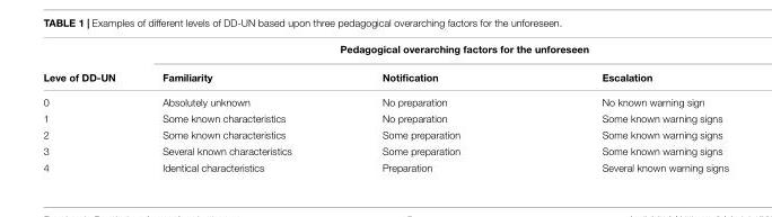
<table><thead><tr><td rowspan="2">Leve of DD-UN</td><td colspan="3">Pedagogical overarching factors for the unforeseen</td></tr><tr><td>Familiarity</td><td>Notification</td><td>Escalation</td></tr></thead><tbody><tr><td>0</td><td>Absolutely unknown</td><td>No preparation</td><td>No known warning sign</td></tr><tr><td>1</td><td>Some known characteristics</td><td>No preparation</td><td>Some known warning signs</td></tr><tr><td>2</td><td>Some known characteristics</td><td>Some preparation</td><td>Some known warning signs</td></tr><tr><td>3</td><td>Several known characteristics</td><td>Some preparation</td><td>Some known warning signs</td></tr><tr><td>4</td><td>Identical characteristics</td><td>Preparation</td><td>Several known warning signs</td></tr></tbody></table>